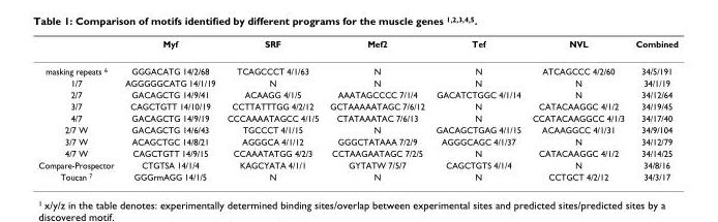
<table><thead><tr><td></td><td>Myf</td><td>SRF</td><td>Mef2</td><td>Tef</td><td>NVL</td><td>Combined</td></tr></thead><tbody><tr><td>masking repeats 6</td><td>GGGACATG 14/2/68</td><td>TCAGCCCT 4/1/63</td><td>N</td><td>N</td><td>ATCAGCCC 4/2/60</td><td>34/5/191</td></tr><tr><td>1/7</td><td>AGGGGGCATG 14/1/19</td><td>N</td><td>N</td><td>N</td><td>N</td><td>34/1/19</td></tr><tr><td>2/7</td><td>GACAGCTG 14/9/41</td><td>ACAAGG 4/1/5</td><td>AAATAGCCCC 7/1/4</td><td>GACATCTGGC 4/1/14</td><td>N</td><td>34/12/64</td></tr><tr><td>3/7</td><td>CAGCTGTT 14/10/19</td><td>CCTTATTTGG 4/2/12</td><td>GCTAAAAATAGC 7/6/12</td><td>N</td><td>CATACAAGGC 4/1/2</td><td>34/19/45</td></tr><tr><td>4/7</td><td>GACAGCTG 14/9/19</td><td>CCCAAAATAGCC 4/1/5</td><td>CTATAAATAC 7/6/13</td><td>N</td><td>CCATACAAGGCC 4/1/3</td><td>34/17/40</td></tr><tr><td>2/7 W</td><td>GACAGCTG 14/6/43</td><td>TGCCCT 4/1/15</td><td>N</td><td>GACAGCTGAG 4/1/15</td><td>ACAAGGCC 4/1/31</td><td>34/9/104</td></tr><tr><td>3/7 W</td><td>ACAGCTGC 14/8/21</td><td>AGGGCA 4/1/12</td><td>GGGCTATAAA 7/2/9</td><td>AGGGCAGC 4/1/37</td><td>N</td><td>34/12/79</td></tr><tr><td>4/7 W</td><td>CAGCTGTT 14/9/15</td><td>CCAAATATGG 4/2/3</td><td>CCTAAGAATAGC 7/2/5</td><td>N</td><td>CATACAAGGC 4/1/2</td><td>34/14/25</td></tr><tr><td>Compare-Prospector</td><td>CTGTSA 14/1/4</td><td>KAGCYATA 4/1/1</td><td>GYTATW 7/5/7</td><td>CAGCTGTS 4/1/4</td><td>N</td><td>34/8/16</td></tr><tr><td>Toucan 7</td><td>GGGrmAGG 14/1/5</td><td>N</td><td>N</td><td>N</td><td>CCTGCT 4/2/12</td><td>34/3/17</td></tr></tbody></table>